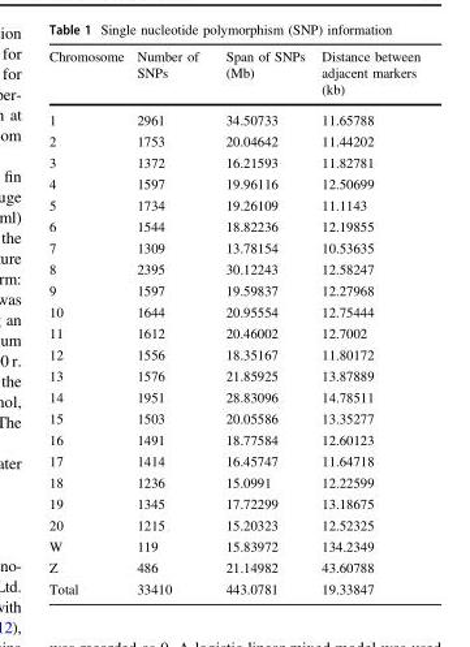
<table><thead><tr><td>Chromosome</td><td>Number of SNPs</td><td>Span of SNPs (Mb)</td><td>Distance between adjacent markers (kb)</td></tr></thead><tbody><tr><td>1</td><td>2961</td><td>34.50733</td><td>11.65788</td></tr><tr><td>2</td><td>1753</td><td>20.04642</td><td>11.44202</td></tr><tr><td>3</td><td>1372</td><td>16.21593</td><td>11.82781</td></tr><tr><td>4</td><td>1597</td><td>19.96116</td><td>12.50699</td></tr><tr><td>5</td><td>1734</td><td>19.26109</td><td>11.1143</td></tr><tr><td>6</td><td>1544</td><td>18.82236</td><td>12.19855</td></tr><tr><td>7</td><td>1309</td><td>13.78154</td><td>10.53635</td></tr><tr><td>8</td><td>2395</td><td>30.12243</td><td>12.58247</td></tr><tr><td>9</td><td>1597</td><td>19.59837</td><td>12.27968</td></tr><tr><td>10</td><td>1644</td><td>20.95554</td><td>12.75444</td></tr><tr><td>11</td><td>1612</td><td>20.46002</td><td>12.7002</td></tr><tr><td>12</td><td>1556</td><td>18.35167</td><td>11.80172</td></tr><tr><td>13</td><td>1576</td><td>21.85925</td><td>13.87889</td></tr><tr><td>14</td><td>1951</td><td>28.83096</td><td>14.78511</td></tr><tr><td>15</td><td>1503</td><td>20.05586</td><td>13.35277</td></tr><tr><td>16</td><td>1491</td><td>18.77584</td><td>12.60123</td></tr><tr><td>17</td><td>1414</td><td>16.45747</td><td>11.64718</td></tr><tr><td>18</td><td>1236</td><td>15.0991</td><td>12.22599</td></tr><tr><td>19</td><td>1345</td><td>17.72299</td><td>13.18675</td></tr><tr><td>20</td><td>1215</td><td>15.20323</td><td>12.52325</td></tr><tr><td>W</td><td>119</td><td>15.83972</td><td>134.2349</td></tr><tr><td>Z</td><td>486</td><td>21.14982</td><td>43.60788</td></tr><tr><td>Total</td><td>33410</td><td>443.0781</td><td>19.33847</td></tr></tbody></table>